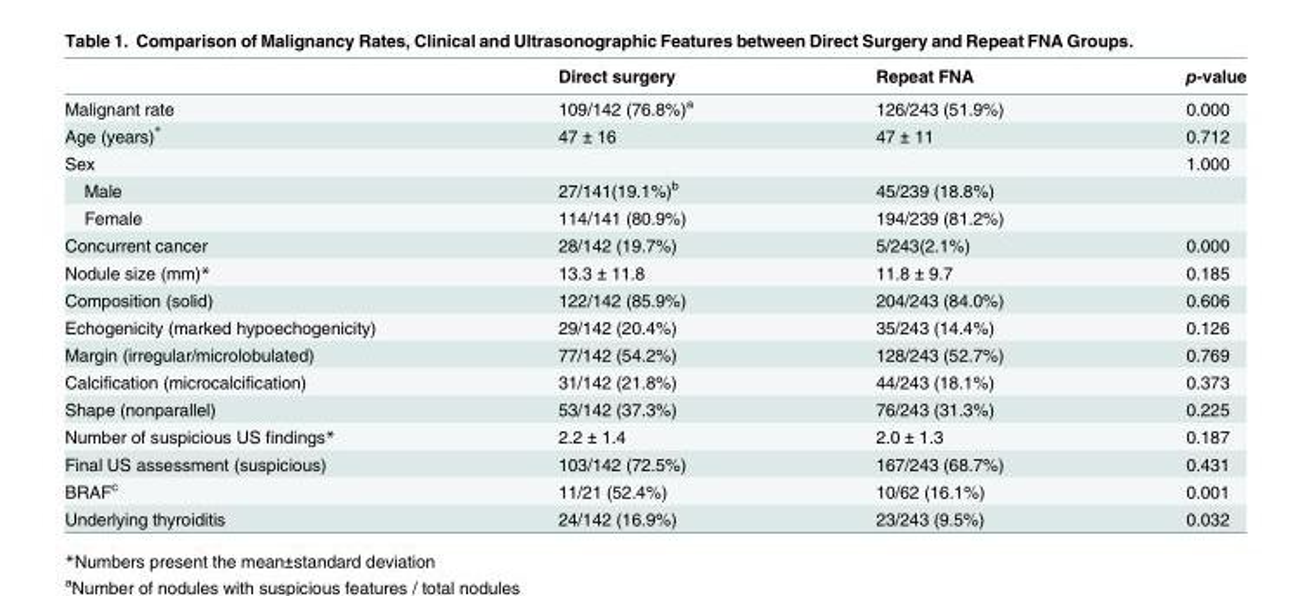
<table><thead><tr><td></td><td>Direct surgery</td><td>Repeat FNA</td><td>p-value</td></tr></thead><tbody><tr><td>Malignant rate</td><td>109/142 (76.8%)<sup>a</sup></td><td>126/243 (51.9%)</td><td>0.000</td></tr><tr><td>Age (years)*</td><td>47 ± 16</td><td>47 ± 11</td><td>0.712</td></tr><tr><td>Sex</td><td></td><td></td><td>1.000</td></tr><tr><td>Male</td><td>27/141(19.1%)<sup>b</sup></td><td>45/239 (18.8%)</td><td></td></tr><tr><td>Female</td><td>114/141 (80.9%)</td><td>194/239 (81.2%)</td><td></td></tr><tr><td>Concurrent cancer</td><td>28/142 (19.7%)</td><td>5/243(2.1%)</td><td>0.000</td></tr><tr><td>Nodule size (mm)*</td><td>13.3 ± 11.8</td><td>11.8 ± 9.7</td><td>0.185</td></tr><tr><td>Composition (solid)</td><td>122/142 (85.9%)</td><td>204/243 (84.0%)</td><td>0.606</td></tr><tr><td>Echogenicity (marked hypoechogenicity)</td><td>29/142 (20.4%)</td><td>35/243 (14.4%)</td><td>0.126</td></tr><tr><td>Margin (irregular/microlobulated)</td><td>77/142 (54.2%)</td><td>128/243 (52.7%)</td><td>0.769</td></tr><tr><td>Calcification (microcalcification)</td><td>31/142 (21.8%)</td><td>44/243 (18.1%)</td><td>0.373</td></tr><tr><td>Shape (nonparallel)</td><td>53/142 (37.3%)</td><td>76/243 (31.3%)</td><td>0.225</td></tr><tr><td>Number of suspicious US findings*</td><td>2.2 ± 1.4</td><td>2.0 ± 1.3</td><td>0.187</td></tr><tr><td>Final US assessment (suspicious)</td><td>103/142 (72.5%)</td><td>167/243 (68.7%)</td><td>0.431</td></tr><tr><td>BRAF<sup>c</sup></td><td>11/21 (52.4%)</td><td>10/62 (16.1%)</td><td>0.001</td></tr><tr><td>Underlying thyroiditis</td><td>24/142 (16.9%)</td><td>23/243 (9.5%)</td><td>0.032</td></tr></tbody></table>